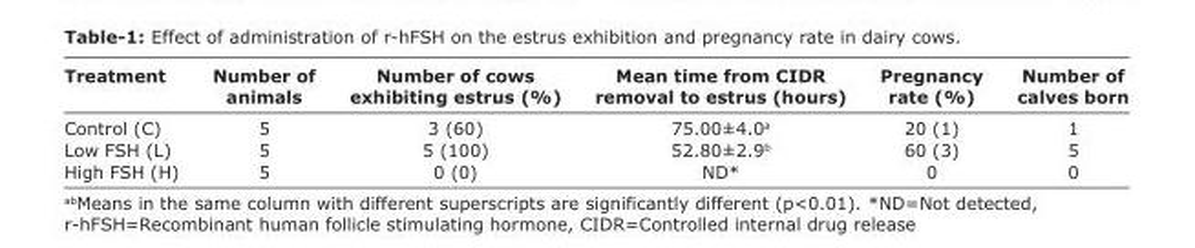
<table><thead><tr><td>Treatment</td><td>Number of animals</td><td>Number of cows exhibiting estrus (%)</td><td>Mean time from CIDR removal to estrus (hours)</td><td>Pregnancy rate (%)</td><td>Number of calves born</td></tr></thead><tbody><tr><td>Control (C)</td><td>5</td><td>3 (60)</td><td>75.00±4.0<sup>a</sup></td><td>20 (1)</td><td>1</td></tr><tr><td>Low FSH (L)</td><td>5</td><td>5 (100)</td><td>52.80±2.9<sup>b</sup></td><td>60 (3)</td><td>5</td></tr><tr><td>High FSH (H)</td><td>5</td><td>0 (0)</td><td>ND*</td><td>0</td><td>0</td></tr></tbody></table>